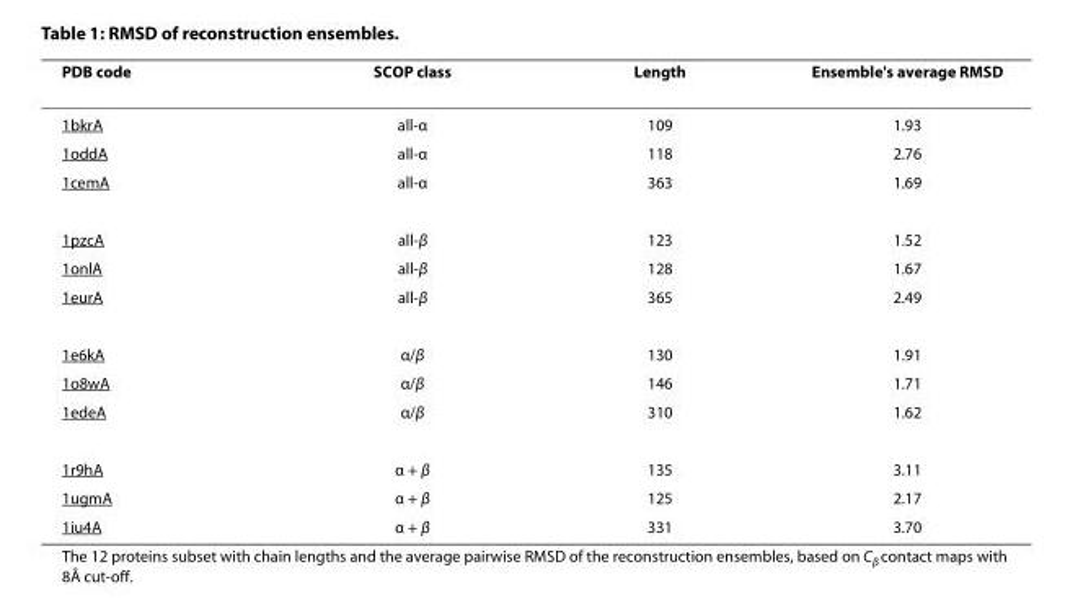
<table><thead><tr><td>PDB code</td><td>SCOP class</td><td>Length</td><td>Ensemble&#x27;s average RMSD</td></tr></thead><tbody><tr><td>1bkrA</td><td>all-α</td><td>109</td><td>1.93</td></tr><tr><td>1oddA</td><td>all-α</td><td>118</td><td>2.76</td></tr><tr><td>1cemA</td><td>all-α</td><td>363</td><td>1.69</td></tr><tr><td>1pzcA</td><td>all-β</td><td>123</td><td>1.52</td></tr><tr><td>1onlA</td><td>all-β</td><td>128</td><td>1.67</td></tr><tr><td>1eurA</td><td>all-β</td><td>365</td><td>2.49</td></tr><tr><td>1e6kA</td><td>α/β</td><td>130</td><td>1.91</td></tr><tr><td>1o8wA</td><td>α/β</td><td>146</td><td>1.71</td></tr><tr><td>1edeA</td><td>α/β</td><td>310</td><td>1.62</td></tr><tr><td>1r9hA</td><td>α + β</td><td>135</td><td>3.11</td></tr><tr><td>1ugmA</td><td>α + β</td><td>125</td><td>2.17</td></tr><tr><td>1iu4A</td><td>α + β</td><td>331</td><td>3.70</td></tr></tbody></table>